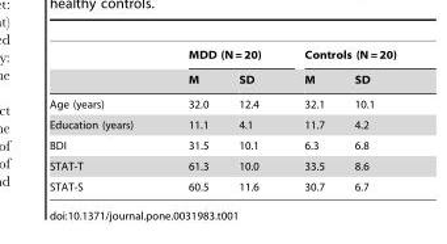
<table><thead><tr><td rowspan="2"></td><td colspan="2">MDD (N = 20)</td><td colspan="2">Controls (N = 20)</td></tr><tr><td>M</td><td>SD</td><td>M</td><td>SD</td></tr></thead><tbody><tr><td>Age (years)</td><td>32.0</td><td>12.4</td><td>32.1</td><td>10.1</td></tr><tr><td>Education (years)</td><td>11.1</td><td>4.1</td><td>11.7</td><td>4.2</td></tr><tr><td>BDI</td><td>31.5</td><td>10.1</td><td>6.3</td><td>6.8</td></tr><tr><td>STAT-T</td><td>61.3</td><td>10.0</td><td>33.5</td><td>8.6</td></tr><tr><td>STAT-S</td><td>60.5</td><td>11.6</td><td>30.7</td><td>6.7</td></tr></tbody></table>